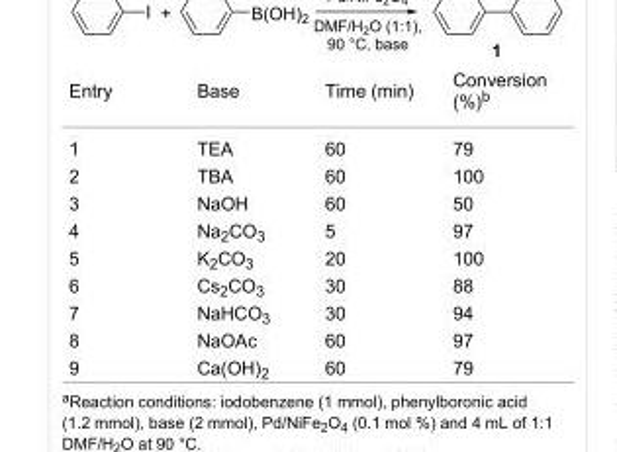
<table><tbody><tr><td>Entry</td><td>Base</td><td>Time (min)</td><td>Conversion (%)<sup>b</sup></td></tr><tr><td>1</td><td>TEA</td><td>60</td><td>79</td></tr><tr><td>2</td><td>TBA</td><td>60</td><td>100</td></tr><tr><td>3</td><td>NaOH</td><td>60</td><td>50</td></tr><tr><td>4</td><td>Na<sub>2</sub>CO<sub>3</sub></td><td>5</td><td>97</td></tr><tr><td>5</td><td>K<sub>2</sub>CO<sub>3</sub></td><td>20</td><td>100</td></tr><tr><td>6</td><td>Cs<sub>2</sub>CO<sub>3</sub></td><td>30</td><td>88</td></tr><tr><td>7</td><td>NaHCO<sub>3</sub></td><td>30</td><td>94</td></tr><tr><td>8</td><td>NaOAc</td><td>60</td><td>97</td></tr><tr><td>9</td><td>Ca(OH)<sub>2</sub></td><td>60</td><td>79</td></tr></tbody></table>